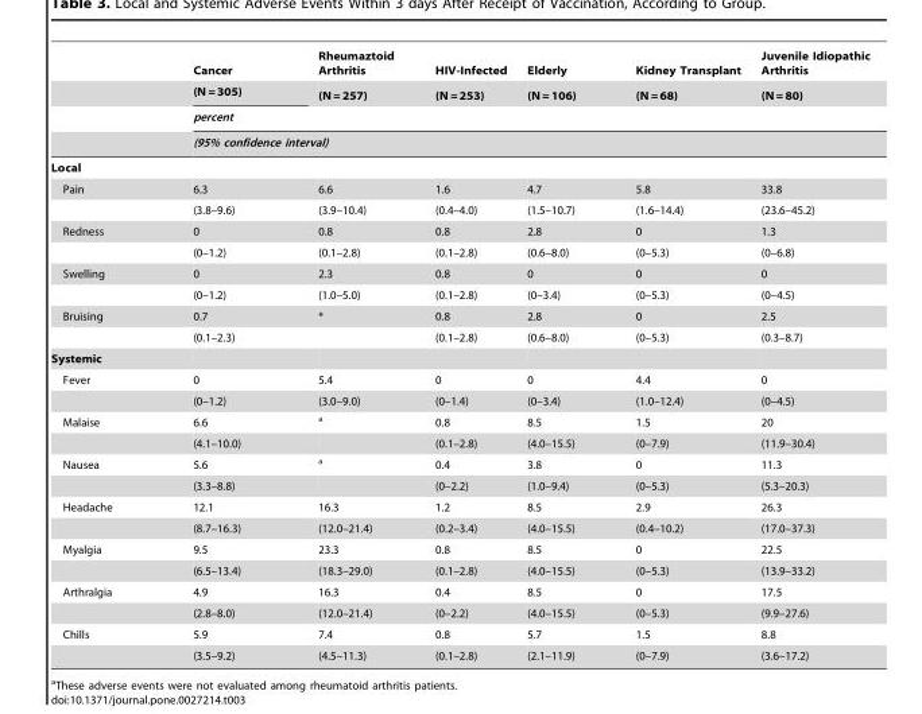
<table><thead><tr><td rowspan="4"></td><td rowspan="2">Cancer (N = 305)</td><td rowspan="2">Rheumaztoid Arthritis (N = 257)</td><td rowspan="2">HIV-Infected (N = 253)</td><td rowspan="2">Elderly (N = 106)</td><td rowspan="2">Kidney Transplant (N = 68)</td><td rowspan="2">Juvenile Idiopathic Arthritis (N = 80)</td></tr><tr></tr><tr><td rowspan="2" colspan="6">percent (95% confidence interval)</td></tr><tr></tr></thead><tbody><tr><td colspan="7">Local</td></tr><tr><td rowspan="2">Pain</td><td>6.3</td><td>6.6</td><td>1.6</td><td>4.7</td><td>5.8</td><td>33.8</td></tr><tr><td>(3.8–9.6)</td><td>(3.9–10.4)</td><td>(0.4–4.0)</td><td>(1.5–10.7)</td><td>(1.6–14.4)</td><td>(23.6–45.2)</td></tr><tr><td rowspan="2">Redness</td><td>0</td><td>0.8</td><td>0.8</td><td>2.8</td><td>0</td><td>1.3</td></tr><tr><td>(0–1.2)</td><td>(0.1–2.8)</td><td>(0.1–2.8)</td><td>(0.6–8.0)</td><td>(0–5.3)</td><td>(0–6.8)</td></tr><tr><td rowspan="2">Swelling</td><td>0</td><td>2.3</td><td>0.8</td><td>0</td><td>0</td><td>0</td></tr><tr><td>(0–1.2)</td><td>(1.0–5.0)</td><td>(0.1–2.8)</td><td>(0–3.4)</td><td>(0–5.3)</td><td>(0–4.5)</td></tr><tr><td rowspan="2">Bruising</td><td>0.7</td><td>*</td><td>0.8</td><td>2.8</td><td>0</td><td>2.5</td></tr><tr><td>(0.1–2.3)</td><td></td><td>(0.1–2.8)</td><td>(0.6–8.0)</td><td>(0–5.3)</td><td>(0.3–8.7)</td></tr><tr><td colspan="7">Systemic</td></tr><tr><td rowspan="2">Fever</td><td>0</td><td>5.4</td><td>0</td><td>0</td><td>4.4</td><td>0</td></tr><tr><td>(0–1.2)</td><td>(3.0–9.0)</td><td>(0–1.4)</td><td>(0–3.4)</td><td>(1.0–12.4)</td><td>(0–4.5)</td></tr><tr><td rowspan="2">Malaise</td><td>6.6</td><td>a</td><td>0.8</td><td>8.5</td><td>1.5</td><td>20</td></tr><tr><td>(4.1–10.0)</td><td></td><td>(0.1–2.8)</td><td>(4.0–15.5)</td><td>(0–7.9)</td><td>(11.9–30.4)</td></tr><tr><td rowspan="2">Nausea</td><td>5.6</td><td>a</td><td>0.4</td><td>3.8</td><td>0</td><td>11.3</td></tr><tr><td>(3.3–8.8)</td><td></td><td>(0–2.2)</td><td>(1.0–9.4)</td><td>(0–5.3)</td><td>(5.3–20.3)</td></tr><tr><td rowspan="2">Headache</td><td>12.1</td><td>16.3</td><td>1.2</td><td>8.5</td><td>2.9</td><td>26.3</td></tr><tr><td>(8.7–16.3)</td><td>(12.0–21.4)</td><td>(0.2–3.4)</td><td>(4.0–15.5)</td><td>(0.4–10.2)</td><td>(17.0–37.3)</td></tr><tr><td rowspan="2">Myalgia</td><td>9.5</td><td>23.3</td><td>0.8</td><td>8.5</td><td>0</td><td>22.5</td></tr><tr><td>(6.5–13.4)</td><td>(18.3–29.0)</td><td>(0.1–2.8)</td><td>(4.0–15.5)</td><td>(0–5.3)</td><td>(13.9–33.2)</td></tr><tr><td rowspan="2">Arthralgia</td><td>4.9</td><td>16.3</td><td>0.4</td><td>8.5</td><td>0</td><td>17.5</td></tr><tr><td>(2.8–8.0)</td><td>(12.0–21.4)</td><td>(0–2.2)</td><td>(4.0–15.5)</td><td>(0–5.3)</td><td>(9.9–27.6)</td></tr><tr><td rowspan="2">Chills</td><td>5.9</td><td>7.4</td><td>0.8</td><td>5.7</td><td>1.5</td><td>8.8</td></tr><tr><td>(3.5–9.2)</td><td>(4.5–11.3)</td><td>(0.1–2.8)</td><td>(2.1–11.9)</td><td>(0–7.9)</td><td>(3.6–17.2)</td></tr></tbody></table>